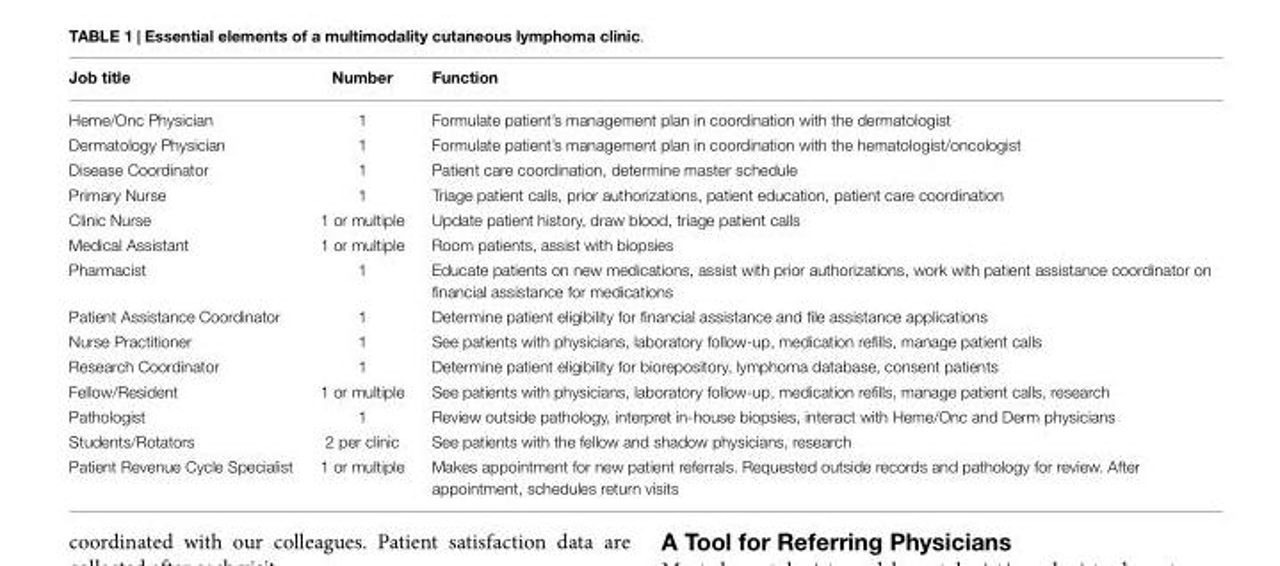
<table><thead><tr><td>Job title</td><td>Number</td><td>Function</td></tr></thead><tbody><tr><td>Heme/Onc Physician</td><td>1</td><td>Formulate patient’s management plan in coordination with the dermatologist</td></tr><tr><td>Dermatology Physician</td><td>1</td><td>Formulate patient’s management plan in coordination with the hematologist/oncologist</td></tr><tr><td>Disease Coordinator</td><td>1</td><td>Patient care coordination, determine master schedule</td></tr><tr><td>Primary Nurse</td><td>1</td><td>Triage patient calls, prior authorizations, patient education, patient care coordination</td></tr><tr><td>Clinic Nurse</td><td>1 or multiple</td><td>Update patient history, draw blood, triage patient calls</td></tr><tr><td>Medical Assistant</td><td>1 or multiple</td><td>Room patients, assist with biopsies</td></tr><tr><td>Pharmacist</td><td>1</td><td>Educate patients on new medications, assist with prior authorizations, work with patient assistance coordinator on financial assistance for medications</td></tr><tr><td>Patient Assistance Coordinator</td><td>1</td><td>Determine patient eligibility for financial assistance and file assistance applications</td></tr><tr><td>Nurse Practitioner</td><td>1</td><td>See patients with physicians, laboratory follow-up, medication refills, manage patient calls</td></tr><tr><td>Research Coordinator</td><td>1</td><td>Determine patient eligibility for biorepository, lymphoma database, consent patients</td></tr><tr><td>Fellow/Resident</td><td>1 or multiple</td><td>See patients with physicians, laboratory follow-up, medication refills, manage patient calls, research</td></tr><tr><td>Pathologist</td><td>1</td><td>Review outside pathology, interpret in-house biopsies, interact with Heme/Onc and Derm physicians</td></tr><tr><td>Students/Rotators</td><td>2 per clinic</td><td>See patients with the fellow and shadow physicians, research</td></tr><tr><td>Patient Revenue Cycle Specialist</td><td>1 or multiple</td><td>Makes appointment for new patient referrals. Requested outside records and pathology for review. After appointment, schedules return visits</td></tr></tbody></table>